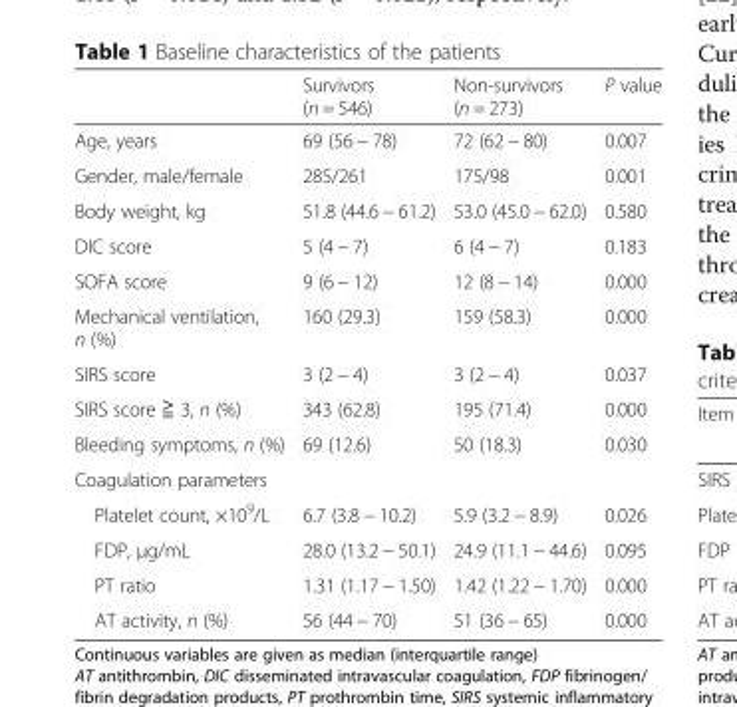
<table><thead><tr><td></td><td>Survivors (n = 546)</td><td>Non-survivors (n = 273)</td><td>P value</td></tr></thead><tbody><tr><td>Age, years</td><td>69 (56 − 78)</td><td>72 (62 − 80)</td><td>0.007</td></tr><tr><td>Gender, male/female</td><td>285/261</td><td>175/98</td><td>0.001</td></tr><tr><td>Body weight, kg</td><td>51.8 (44.6 − 61.2)</td><td>53.0 (45.0 − 62.0)</td><td>0.580</td></tr><tr><td>DIC score</td><td>5 (4 − 7)</td><td>6 (4 − 7)</td><td>0.183</td></tr><tr><td>SOFA score</td><td>9 (6 − 12)</td><td>12 (8 − 14)</td><td>0.000</td></tr><tr><td>Mechanical ventilation, n (%)</td><td>160 (29.3)</td><td>159 (58.3)</td><td>0.000</td></tr><tr><td>SIRS score</td><td>3 (2 − 4)</td><td>3 (2 − 4)</td><td>0.037</td></tr><tr><td>SIRS score ≧ 3, n (%)</td><td>343 (62.8)</td><td>195 (71.4)</td><td>0.000</td></tr><tr><td>Bleeding symptoms, n (%)</td><td>69 (12.6)</td><td>50 (18.3)</td><td>0.030</td></tr><tr><td colspan="4">Coagulation parameters</td></tr><tr><td>Platelet count, ×10<sup>9</sup>/L</td><td>6.7 (3.8 − 10.2)</td><td>5.9 (3.2 − 8.9)</td><td>0.026</td></tr><tr><td>FDP, μg/mL</td><td>28.0 (13.2 − 50.1)</td><td>24.9 (11.1 − 44.6)</td><td>0.095</td></tr><tr><td>PT ratio</td><td>1.31 (1.17 − 1.50)</td><td>1.42 (1.22 − 1.70)</td><td>0.000</td></tr><tr><td>AT activity, n (%)</td><td>56 (44 − 70)</td><td>51 (36 − 65)</td><td>0.000</td></tr></tbody></table>